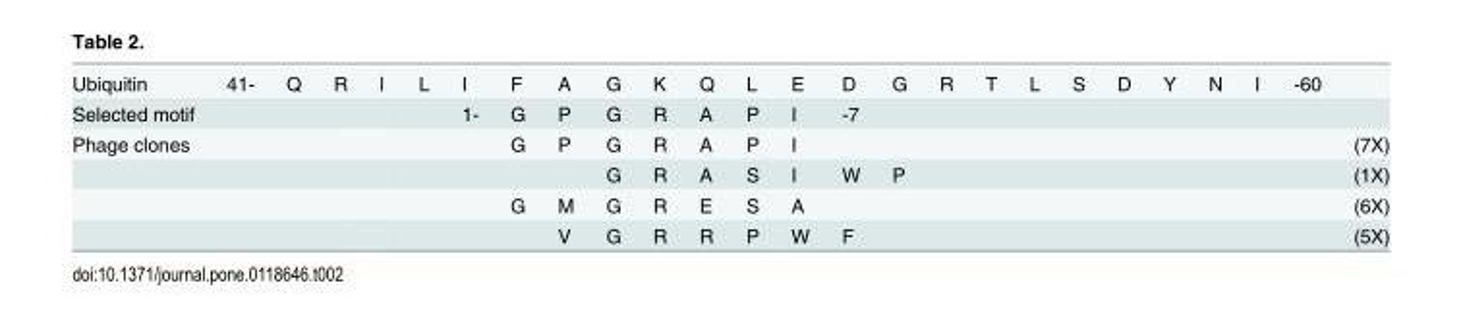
<table><tbody><tr><td>Ubiquitin</td><td>41-</td><td>Q</td><td>R</td><td>l</td><td>L</td><td>I</td><td>F</td><td>A</td><td>G</td><td>K</td><td>Q</td><td>L</td><td>E</td><td>D</td><td>G</td><td>R</td><td>T</td><td>L</td><td>S</td><td>D</td><td>Y</td><td>N</td><td>I</td><td>-60</td><td></td></tr><tr><td>Selected motif</td><td></td><td></td><td></td><td></td><td></td><td>1-</td><td>G</td><td>P</td><td>G</td><td>R</td><td>A</td><td>P</td><td>I</td><td>-7</td><td></td><td></td><td></td><td></td><td></td><td></td><td></td><td></td><td></td><td></td><td></td></tr><tr><td rowspan="4">Phage clones</td><td></td><td></td><td></td><td></td><td></td><td></td><td>G</td><td>P</td><td>G</td><td>R</td><td>A</td><td>P</td><td>I</td><td></td><td></td><td></td><td></td><td></td><td></td><td></td><td></td><td></td><td></td><td></td><td>(7X)</td></tr><tr><td></td><td></td><td></td><td></td><td></td><td></td><td></td><td></td><td>G</td><td>R</td><td>A</td><td>S</td><td>I</td><td>W</td><td>P</td><td></td><td></td><td></td><td></td><td></td><td></td><td></td><td></td><td></td><td>(1X)</td></tr><tr><td></td><td></td><td></td><td></td><td></td><td></td><td>G</td><td>M</td><td>G</td><td>R</td><td>E</td><td>S</td><td>A</td><td></td><td></td><td></td><td></td><td></td><td></td><td></td><td></td><td></td><td></td><td></td><td>(6X)</td></tr><tr><td></td><td></td><td></td><td></td><td></td><td></td><td></td><td>V</td><td>G</td><td>R</td><td>R</td><td>P</td><td>W</td><td>F</td><td></td><td></td><td></td><td></td><td></td><td></td><td></td><td></td><td></td><td></td><td>(5X)</td></tr></tbody></table>